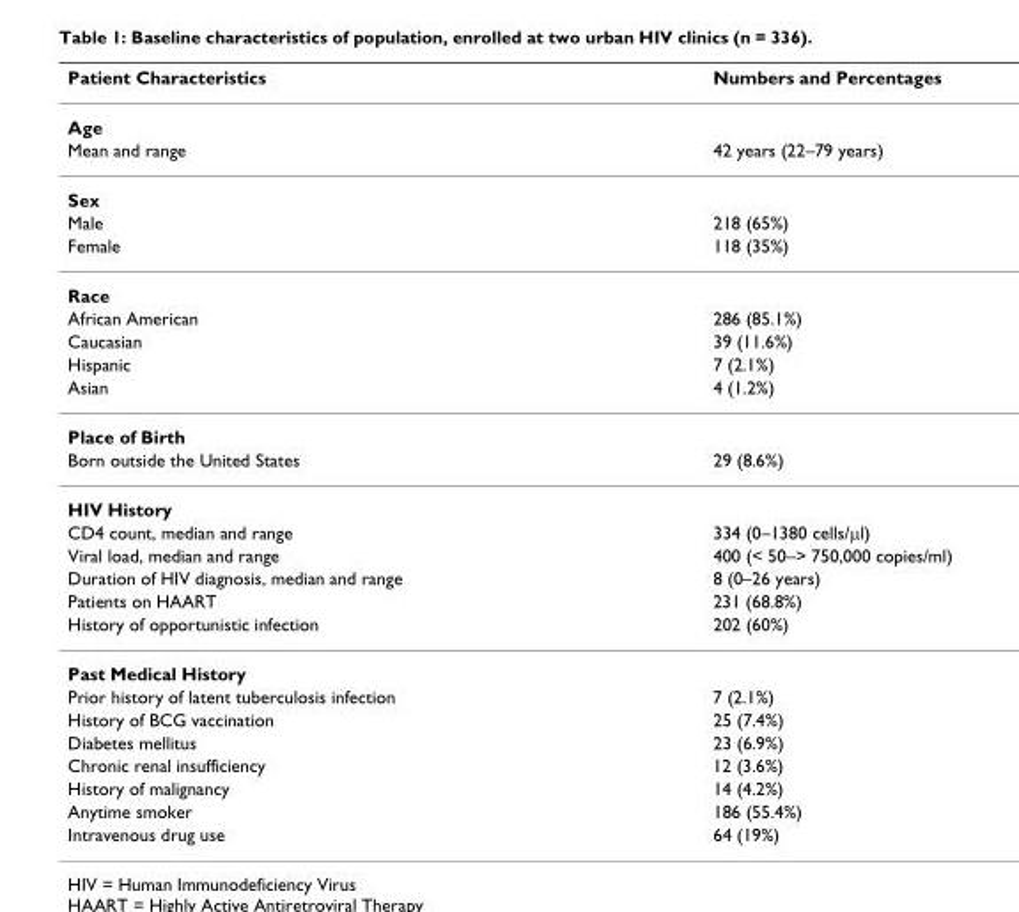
<table><thead><tr><td>Patient Characteristics</td><td>Numbers and Percentages</td></tr></thead><tbody><tr><td colspan="2">Age</td></tr><tr><td>Mean and range</td><td>42 years (22–79 years)</td></tr><tr><td colspan="2">Sex</td></tr><tr><td>Male</td><td>218 (65%)</td></tr><tr><td>Female</td><td>118 (35%)</td></tr><tr><td colspan="2">Race</td></tr><tr><td>African American</td><td>286 (85.1%)</td></tr><tr><td>Caucasian</td><td>39 (11.6%)</td></tr><tr><td>Hispanic</td><td>7 (2.1%)</td></tr><tr><td>Asian</td><td>4 (1.2%)</td></tr><tr><td colspan="2">Place of Birth</td></tr><tr><td>Born outside the United States</td><td>29 (8.6%)</td></tr><tr><td colspan="2">HIV History</td></tr><tr><td>CD4 count, median and range</td><td>334 (0–1380 cells/μl)</td></tr><tr><td>Viral load, median and range</td><td>400 (&lt; 50–&gt; 750,000 copies/ml)</td></tr><tr><td>Duration of HIV diagnosis, median and range</td><td>8 (0–26 years)</td></tr><tr><td>Patients on HAART</td><td>231 (68.8%)</td></tr><tr><td>History of opportunistic infection</td><td>202 (60%)</td></tr><tr><td colspan="2">Past Medical History</td></tr><tr><td>Prior history of latent tuberculosis infection</td><td>7 (2.1%)</td></tr><tr><td>History of BCG vaccination</td><td>25 (7.4%)</td></tr><tr><td>Diabetes mellitus</td><td>23 (6.9%)</td></tr><tr><td>Chronic renal insufficiency</td><td>12 (3.6%)</td></tr><tr><td>History of malignancy</td><td>14 (4.2%)</td></tr><tr><td>Anytime smoker</td><td>186 (55.4%)</td></tr><tr><td>Intravenous drug use</td><td>64 (19%)</td></tr></tbody></table>